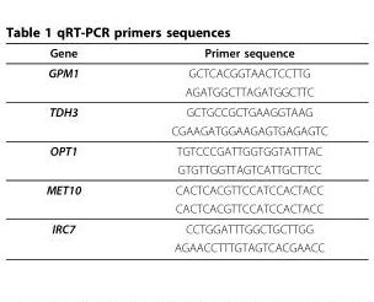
<table><thead><tr><td>Gene</td><td>Primer sequence</td></tr></thead><tbody><tr><td rowspan="2">GPM1</td><td>GCTCACGGTAACTCCTTG</td></tr><tr><td>AGATGGCTTAGATGGCTTC</td></tr><tr><td rowspan="2">TDH3</td><td>GCTGCCGCTGAAGGTAAG</td></tr><tr><td>CGAAGATGGAAGAGTGAGAGTC</td></tr><tr><td rowspan="2">OPT1</td><td>TGTCCCGATTGGTGGTATTTAC</td></tr><tr><td>GTGTTGGTTAGTCATTGCTTCC</td></tr><tr><td rowspan="2">MET10</td><td>CACTCACGTTCCATCCACTACC</td></tr><tr><td>CACTCACGTTCCATCCACTACC</td></tr><tr><td rowspan="2">IRC7</td><td>CCTGGATTTGGCTGCTTGG</td></tr><tr><td>AGAACCTTTGTAGTCACGAACC</td></tr></tbody></table>